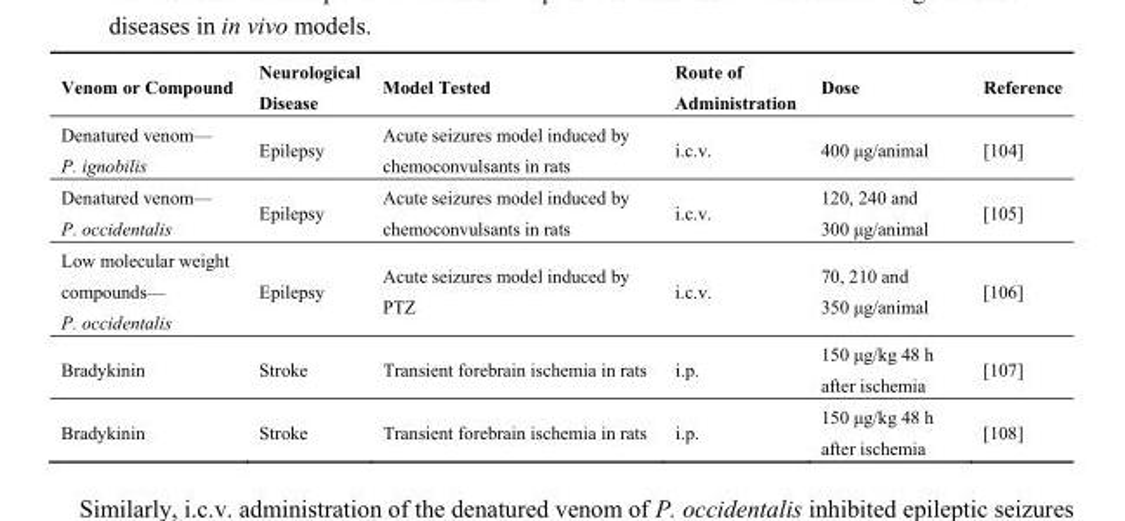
<table><thead><tr><td>Venom or Compound</td><td>Neurological Disease</td><td>Model Tested</td><td>Route of Administration</td><td>Dose</td><td>Reference</td></tr></thead><tbody><tr><td>Denatured venom— P. ignobilis</td><td>Epilepsy</td><td>Acute seizures model induced by chemoconvulsants in rats</td><td>i.c.v.</td><td>400 μg/animal</td><td>[104]</td></tr><tr><td>Denatured venom— P. occidentalis</td><td>Epilepsy</td><td>Acute seizures model induced by chemoconvulsants in rats</td><td>i.c.v.</td><td>120, 240 and 300 μg/animal</td><td>[105]</td></tr><tr><td>Low molecular weight compounds— P. occidentalis</td><td>Epilepsy</td><td>Acute seizures model induced by PTZ</td><td>i.c.v.</td><td>70, 210 and 350 μg/animal</td><td>[106]</td></tr><tr><td>Bradykinin</td><td>Stroke</td><td>Transient forebrain ischemia in rats</td><td>i.p.</td><td>150 μg/kg 48 h after ischemia</td><td>[107]</td></tr><tr><td>Bradykinin</td><td>Stroke</td><td>Transient forebrain ischemia in rats</td><td>i.p.</td><td>150 μg/kg 48 h after ischemia</td><td>[108]</td></tr></tbody></table>